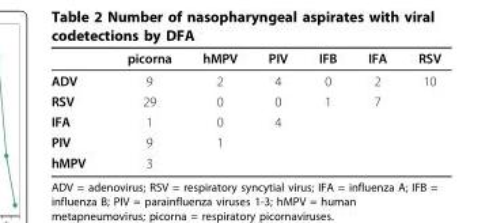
<table><thead><tr><td></td><td>picorna</td><td>hMPV</td><td>PIV</td><td>IFB</td><td>IFA</td><td>RSV</td></tr></thead><tbody><tr><td>ADV</td><td>9</td><td>2</td><td>4</td><td>0</td><td>2</td><td>10</td></tr><tr><td>RSV</td><td>29</td><td>0</td><td>0</td><td>1</td><td>7</td><td></td></tr><tr><td>IFA</td><td>1</td><td>0</td><td>4</td><td></td><td></td><td></td></tr><tr><td>PIV</td><td>9</td><td>1</td><td></td><td></td><td></td><td></td></tr><tr><td>hMPV</td><td>3</td><td></td><td></td><td></td><td></td><td></td></tr></tbody></table>